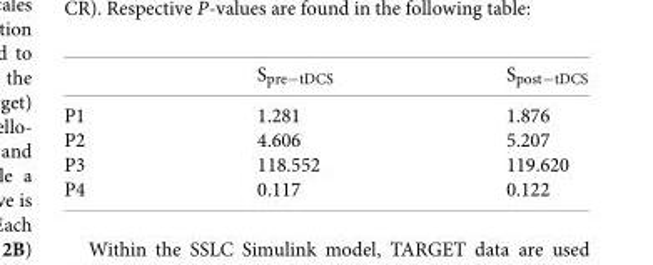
<table><thead><tr><td></td><td>S<sub>pre−tDCS</sub></td><td>S<sub>post−tDCS</sub></td></tr></thead><tbody><tr><td>P1</td><td>1.281</td><td>1.876</td></tr><tr><td>P2</td><td>4.606</td><td>5.207</td></tr><tr><td>P3</td><td>118.552</td><td>119.620</td></tr><tr><td>P4</td><td>0.117</td><td>0.122</td></tr></tbody></table>